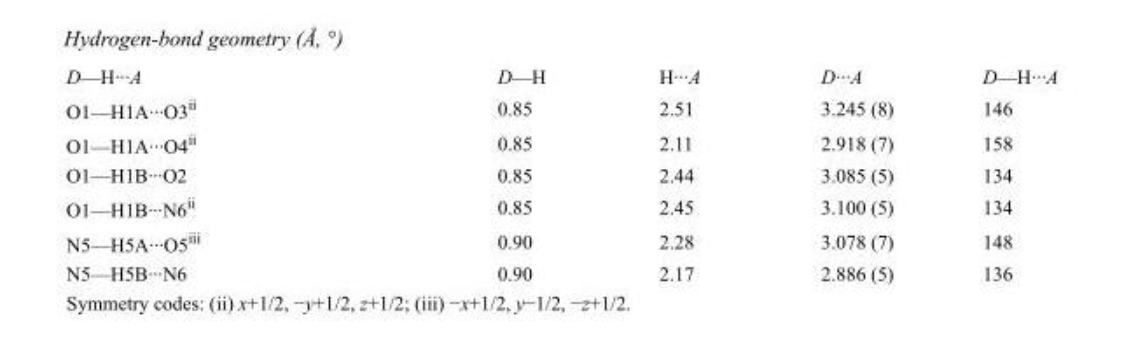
<table><tbody><tr><td>D—H···A</td><td>D—H</td><td>H···A</td><td>D···A</td><td>D—H···A</td></tr><tr><td>O1—H1A···O3<sup>ii</sup></td><td>0.85</td><td>2.51</td><td>3.245 (8)</td><td>146</td></tr><tr><td>O1—H1A···O4<sup>ii</sup></td><td>0.85</td><td>2.11</td><td>2.918 (7)</td><td>158</td></tr><tr><td>O1—H1B···O2</td><td>0.85</td><td>2.44</td><td>3.085 (5)</td><td>134</td></tr><tr><td>O1—H1B···N6<sup>ii</sup></td><td>0.85</td><td>2.45</td><td>3.100 (5)</td><td>134</td></tr><tr><td>N5—H5A···O5<sup>iii</sup></td><td>0.90</td><td>2.28</td><td>3.078 (7)</td><td>148</td></tr><tr><td>N5—H5B···N6</td><td>0.90</td><td>2.17</td><td>2.886 (5)</td><td>136</td></tr></tbody></table>